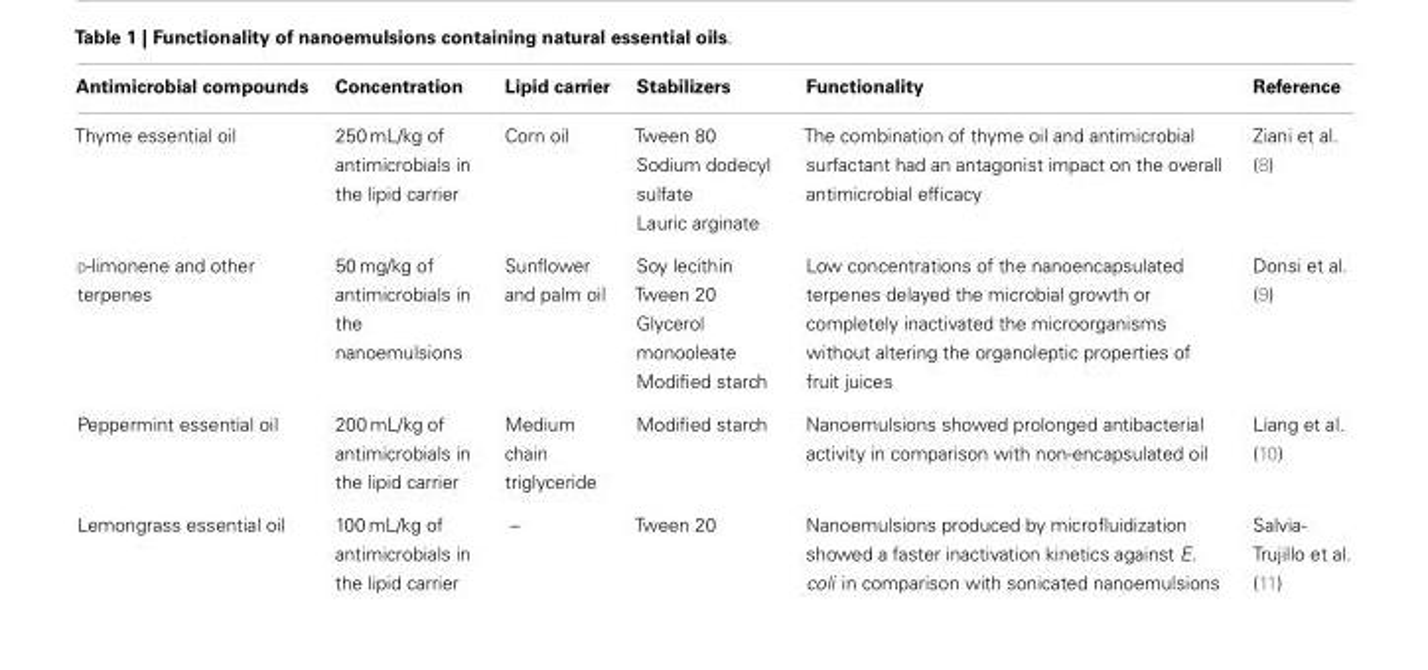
<table><thead><tr><td>Antimicrobial compounds</td><td>Concentration</td><td>Lipid carrier</td><td>Stabilizers</td><td>Functionality</td><td>Reference</td></tr></thead><tbody><tr><td>Thyme essential oil</td><td>250 mL/kg of antimicrobials in the lipid carrier</td><td>Corn oil</td><td>Tween 80 Sodium dodecyl sulfate Lauric arginate</td><td>The combination of thyme oil and antimicrobial surfactant had an antagonist impact on the overall antimicrobial efficacy</td><td>Ziani et al. (8)</td></tr><tr><td>D-limonene and other terpenes</td><td>50 mg/kg of antimicrobials in the nanoemulsions</td><td>Sunflower and palm oil</td><td>Soy lecithin Tween 20 Glycerol monooleate Modified starch</td><td>Low concentrations of the nanoencapsulated terpenes delayed the microbial growth or completely inactivated the microorganisms without altering the organoleptic properties of fruit juices</td><td>Donsi et al. (9)</td></tr><tr><td>Peppermint essential oil</td><td>200 mL/kg of antimicrobials in the lipid carrier</td><td>Medium chain triglyceride</td><td>Modified starch</td><td>Nanoemulsions showed prolonged antibacterial activity in comparison with non-encapsulated oil</td><td>Liang et al. (10)</td></tr><tr><td>Lemongrass essential oil</td><td>100 mL/kg of antimicrobials in the lipid carrier</td><td>–</td><td>Tween 20</td><td>Nanoemulsions produced by microfluidization showed a faster inactivation kinetics against E. coli in comparison with sonicated nanoemulsions</td><td>Salvia- Trujillo et al. (11)</td></tr></tbody></table>